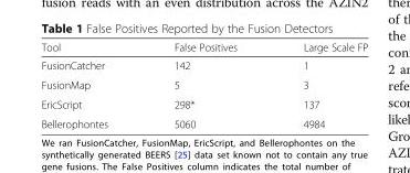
<table><thead><tr><td>Tool</td><td>False Positives</td><td>Large Scale FP</td></tr></thead><tbody><tr><td>FusionCatcher</td><td>142</td><td>1</td></tr><tr><td>FusionMap</td><td>5</td><td>3</td></tr><tr><td>EricScript</td><td>298*</td><td>137</td></tr><tr><td>Bellerophontes</td><td>5060</td><td>4984</td></tr></tbody></table>